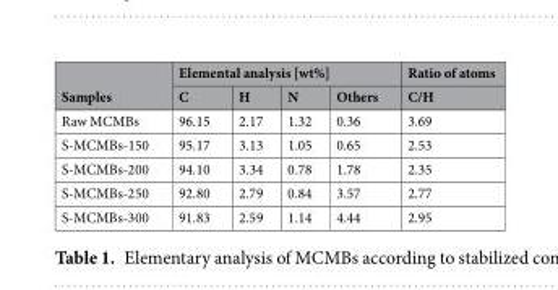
<table><thead><tr><td rowspan="2">Samples</td><td colspan="4">Elemental analysis [wt%]</td><td rowspan="2">Ratio of atoms C/H</td></tr><tr><td>C</td><td>H</td><td>N</td><td>Others</td></tr></thead><tbody><tr><td>Raw MCMBs</td><td>96.15</td><td>2.17</td><td>1.32</td><td>0.36</td><td>3.69</td></tr><tr><td>S-MCMBs-150</td><td>95.17</td><td>3.13</td><td>1.05</td><td>0.65</td><td>2.53</td></tr><tr><td>S-MCMBs-200</td><td>94.10</td><td>3.34</td><td>0.78</td><td>1.78</td><td>2.35</td></tr><tr><td>S-MCMBs-250</td><td>92.80</td><td>2.79</td><td>0.84</td><td>3.57</td><td>2.77</td></tr><tr><td>S-MCMBs-300</td><td>91.83</td><td>2.59</td><td>1.14</td><td>4.44</td><td>2.95</td></tr></tbody></table>